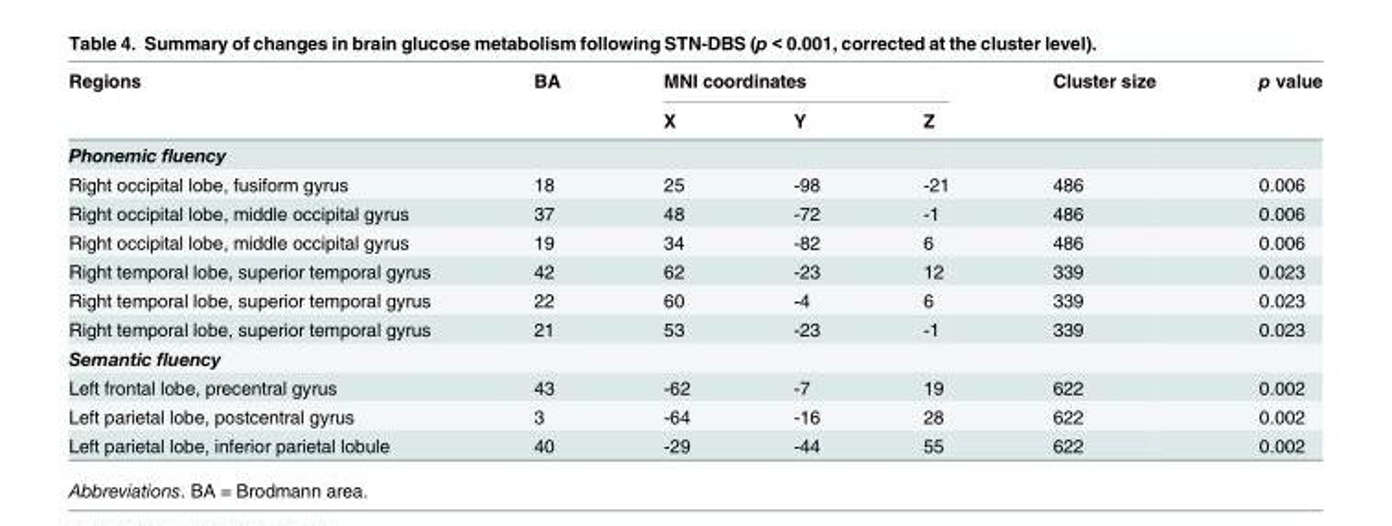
<table><thead><tr><td rowspan="2">Regions</td><td rowspan="2">BA</td><td colspan="3">MNI coordinates</td><td rowspan="2">Cluster size</td><td rowspan="2">p value</td></tr><tr><td>X</td><td>Y</td><td>Z</td></tr></thead><tbody><tr><td colspan="7">Phonemic fluency</td></tr><tr><td>Right occipital lobe, fusiform gyrus</td><td>18</td><td>25</td><td>-98</td><td>-21</td><td>486</td><td>0.006</td></tr><tr><td>Right occipital lobe, middle occipital gyrus</td><td>37</td><td>48</td><td>-72</td><td>-1</td><td>486</td><td>0.006</td></tr><tr><td>Right occipital lobe, middle occipital gyrus</td><td>19</td><td>34</td><td>-82</td><td>6</td><td>486</td><td>0.006</td></tr><tr><td>Right temporal lobe, superior temporal gyrus</td><td>42</td><td>62</td><td>-23</td><td>12</td><td>339</td><td>0.023</td></tr><tr><td>Right temporal lobe, superior temporal gyrus</td><td>22</td><td>60</td><td>-4</td><td>6</td><td>339</td><td>0.023</td></tr><tr><td>Right temporal lobe, superior temporal gyrus</td><td>21</td><td>53</td><td>-23</td><td>-1</td><td>339</td><td>0.023</td></tr><tr><td colspan="7">Semantic fluency</td></tr><tr><td>Left frontal lobe, precentral gyrus</td><td>43</td><td>-62</td><td>-7</td><td>19</td><td>622</td><td>0.002</td></tr><tr><td>Left parietal lobe, postcentral gyrus</td><td>3</td><td>-64</td><td>-16</td><td>28</td><td>622</td><td>0.002</td></tr><tr><td>Left parietal lobe, inferior parietal lobule</td><td>40</td><td>-29</td><td>-44</td><td>55</td><td>622</td><td>0.002</td></tr></tbody></table>